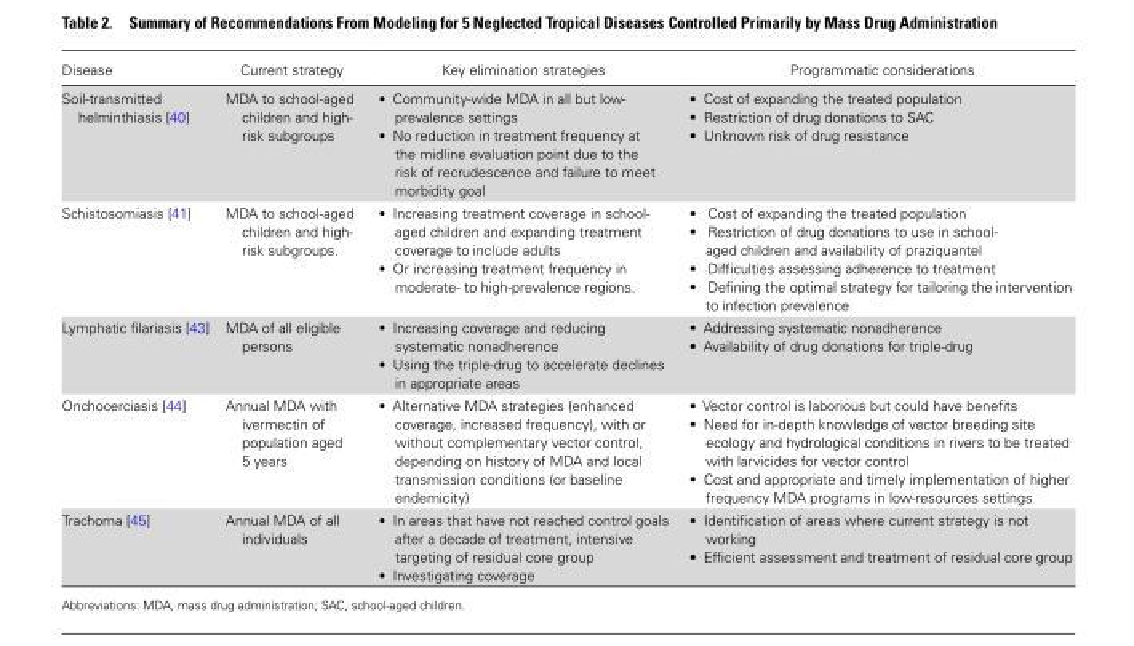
<table><thead><tr><td>Disease</td><td>Current strategy</td><td>Key elimination strategies</td><td>Programmatic considerations</td></tr></thead><tbody><tr><td>Soil-transmitted helminthiasis [40]</td><td>MDA to school-aged children and high- risk subgroups</td><td>• Community-wide MDA in all but low- prevalence settings • No reduction in treatment frequency at the midline evaluation point due to the risk of recrudescence and failure to meet morbidity goal</td><td>• Cost of expanding the treated population • Restriction of drug donations to SAC • Unknown risk of drug resistance</td></tr><tr><td>Schistosomiasis [41]</td><td>MDA to school-aged children and high- risk subgroups.</td><td>• Increasing treatment coverage in school- aged children and expanding treatment coverage to include adults • Or increasing treatment frequency in moderate- to high-prevalence regions.</td><td>• Cost of expanding the treated population • Restriction of drug donations to use in school- aged children and availability of praziquantel • Difficulties assessing adherence to treatment • Defining the optimal strategy for tailoring the intervention to infection prevalence</td></tr><tr><td>Lymphatic filariasis [43]</td><td>MDA of all eligible persons</td><td>• Increasing coverage and reducing systematic nonadherence • Using the triple-drug to accelerate declines in appropriate areas</td><td>• Addressing systematic nonadherence • Availability of drug donations for triple-drug</td></tr><tr><td>Onchocerciasis [44]</td><td>Annual MDA with ivermectin of population aged 5 years</td><td>• Alternative MDA strategies (enhanced coverage, increased frequency), with or without complementary vector control, depending on history of MDA and local transmission conditions (or baseline endemicity)</td><td>• Vector control is laborious but could have benefits • Need for in-depth knowledge of vector breeding site ecology and hydrological conditions in rivers to be treated with larvicides for vector control • Cost and appropriate and timely implementation of higher frequency MDA programs in low-resources settings</td></tr><tr><td>Trachoma [45]</td><td>Annual MDA of all individuals</td><td>• In areas that have not reached control goals after a decade of treatment, intensive targeting of residual core group • Investigating coverage</td><td>• Identification of areas where current strategy is not working • Efficient assessment and treatment of residual core group</td></tr></tbody></table>